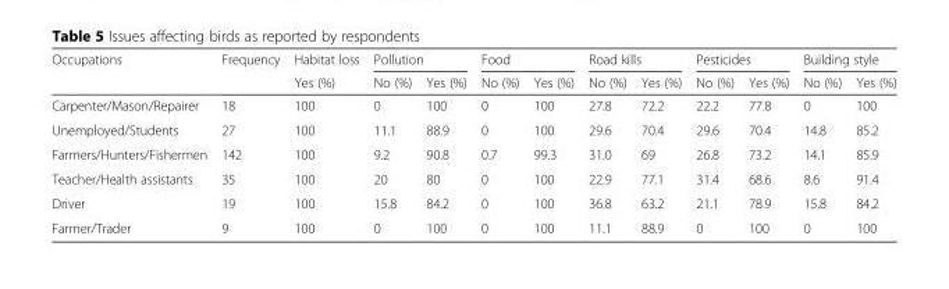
<table><thead><tr><td rowspan="2">Occupations</td><td rowspan="2">Frequency</td><td rowspan="2">Habitat loss Yes (%)</td><td colspan="2">Pollution</td><td colspan="2">Food</td><td colspan="2">Road kills</td><td colspan="2">Pesticides</td><td colspan="2">Building style</td></tr><tr><td>No (%)</td><td>Yes (%)</td><td>No (%)</td><td>Yes (%)</td><td>No (%)</td><td>Yes (%)</td><td>No (%)</td><td>Yes (%)</td><td>No (%)</td><td>Yes (%)</td></tr></thead><tbody><tr><td>Carpenter/Mason/Repairer</td><td>18</td><td>100</td><td>0</td><td>100</td><td>0</td><td>100</td><td>27.8</td><td>72.2</td><td>22.2</td><td>77.8</td><td>0</td><td>100</td></tr><tr><td>Unemployed/Students</td><td>27</td><td>100</td><td>11.1</td><td>88.9</td><td>0</td><td>100</td><td>29.6</td><td>70.4</td><td>29.6</td><td>70.4</td><td>14.8</td><td>85.2</td></tr><tr><td>Farmers/Hunters/Fishermen</td><td>142</td><td>100</td><td>9.2</td><td>90.8</td><td>0.7</td><td>99.3</td><td>31.0</td><td>69</td><td>26.8</td><td>73.2</td><td>14.1</td><td>85.9</td></tr><tr><td>Teacher/Health assistants</td><td>35</td><td>100</td><td>20</td><td>80</td><td>0</td><td>100</td><td>22.9</td><td>77.1</td><td>31.4</td><td>68.6</td><td>8.6</td><td>91.4</td></tr><tr><td>Driver</td><td>19</td><td>100</td><td>15.8</td><td>84.2</td><td>0</td><td>100</td><td>36.8</td><td>63.2</td><td>21.1</td><td>78.9</td><td>15.8</td><td>84.2</td></tr><tr><td>Farmer/Trader</td><td>9</td><td>100</td><td>0</td><td>100</td><td>0</td><td>100</td><td>11.1</td><td>88.9</td><td>0</td><td>100</td><td>0</td><td>100</td></tr></tbody></table>